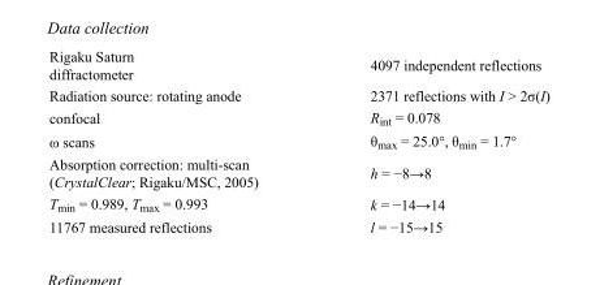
<table><tbody><tr><td>Rigaku Saturn diffractometer</td><td>4097 independent reflections</td></tr><tr><td>Radiation source: rotating anode</td><td>2371 reflections with I &gt; 2σ(I)</td></tr><tr><td>confocal</td><td>R<sub>int</sub> = 0.078</td></tr><tr><td>ω scans</td><td>θ<sub>max</sub> = 25.0°, θ<sub>min</sub> = 1.7°</td></tr><tr><td>Absorption correction: multi-scan (CrystalClear; Rigaku/MSC, 2005)</td><td>h = −8→8</td></tr><tr><td>T<sub>min</sub> = 0.989, T<sub>max</sub> = 0.993</td><td>k = −14→14</td></tr><tr><td>11767 measured reflections</td><td>l = −15→15</td></tr></tbody></table>